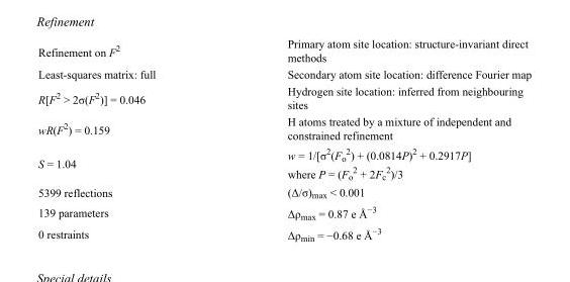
<table><tbody><tr><td>Refinement on F<sup>2</sup></td><td>Primary atom site location: structure-invariant direct methods</td></tr><tr><td>Least-squares matrix: full</td><td>Secondary atom site location: difference Fourier map</td></tr><tr><td>R[F<sup>2</sup> &gt; 2σ(F<sup>2</sup>)] = 0.046</td><td>Hydrogen site location: inferred from neighbouring sites</td></tr><tr><td>wR(F<sup>2</sup>) = 0.159</td><td>H atoms treated by a mixture of independent and constrained refinement</td></tr><tr><td>S = 1.04</td><td>w = 1/[σ<sup>2</sup>(F<sub>o</sub> <sup>2</sup>) + (0.0814P)<sup>2</sup> + 0.2917P] where P = (F<sub>o</sub> <sup>2</sup> + 2F<sub>c</sub> <sup>2</sup>)/3</td></tr><tr><td>5399 reflections</td><td>(Δ/σ)<sub>max</sub> &lt; 0.001</td></tr><tr><td>139 parameters</td><td>Δρ<sub>max</sub> = 0.87 e Å<sup>−3</sup></td></tr><tr><td>0 restraints</td><td>Δρ<sub>min</sub> = −0.68 e Å<sup>−3</sup></td></tr></tbody></table>